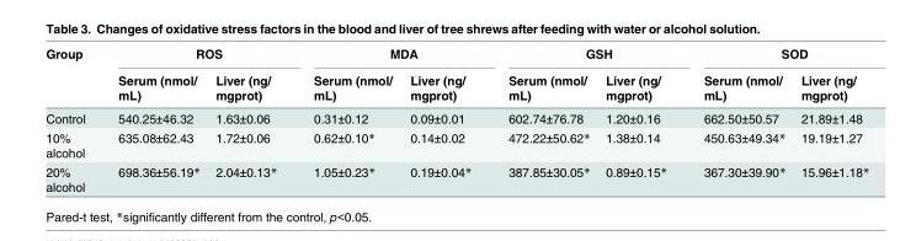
<table><thead><tr><td rowspan="2">Group</td><td colspan="2">ROS</td><td colspan="2">MDA</td><td colspan="2">GSH</td><td colspan="2">SOD</td></tr><tr><td>Serum (nmol/ mL)</td><td>Liver (ng/ mgprot)</td><td>Serum (nmol/ mL)</td><td>Liver (ng/ mgprot)</td><td>Serum (nmol/ mL)</td><td>Liver (ng/ mgprot)</td><td>Serum (nmol/ mL)</td><td>Liver (ng/ mgprot)</td></tr></thead><tbody><tr><td>Control</td><td>540.25±46.32</td><td>1.63±0.06</td><td>0.31±0.12</td><td>0.09±0.01</td><td>602.74±76.78</td><td>1.20±0.16</td><td>662.50±50.57</td><td>21.89±1.48</td></tr><tr><td>10% alcohol</td><td>635.08±62.43</td><td>1.72±0.06</td><td>0.62±0.10*</td><td>0.14±0.02</td><td>472.22±50.62*</td><td>1.38±0.14</td><td>450.63±49.34*</td><td>19.19±1.27</td></tr><tr><td>20% alcohol</td><td>698.36±56.19*</td><td>2.04±0.13*</td><td>1.05±0.23*</td><td>0.19±0.04*</td><td>387.85±30.05*</td><td>0.89±0.15*</td><td>367.30±39.90*</td><td>15.96±1.18*</td></tr></tbody></table>